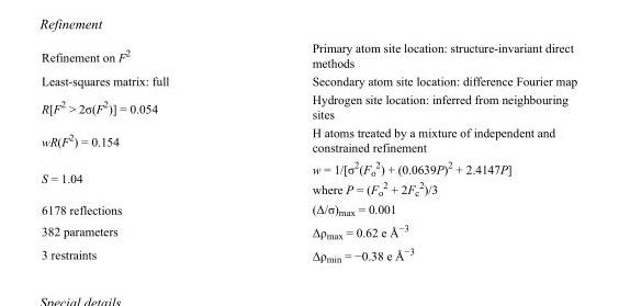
<table><tbody><tr><td>Refinement on F<sup>2</sup></td><td>Primary atom site location: structure-invariant direct methods</td></tr><tr><td>Least-squares matrix: full</td><td>Secondary atom site location: difference Fourier map</td></tr><tr><td>R[F<sup>2</sup> &gt; 2σ(F<sup>2</sup>)] = 0.054</td><td>Hydrogen site location: inferred from neighbouring sites</td></tr><tr><td>wR(F<sup>2</sup>) = 0.154</td><td>H atoms treated by a mixture of independent and constrained refinement</td></tr><tr><td>S = 1.04</td><td>w = 1/[σ<sup>2</sup>(F<sub>o</sub> <sup>2</sup>) + (0.0639P)<sup>2</sup> + 2.4147P] where P = (F<sub>o</sub> <sup>2</sup> + 2F<sub>c</sub> <sup>2</sup>)/3</td></tr><tr><td>6178 reflections</td><td>(Δ/σ)<sub>max</sub> = 0.001</td></tr><tr><td>382 parameters</td><td>Δρ<sub>max</sub> = 0.62 e Å<sup>−3</sup></td></tr><tr><td>3 restraints</td><td>Δρ<sub>min</sub> = −0.38 e Å<sup>−3</sup></td></tr></tbody></table>